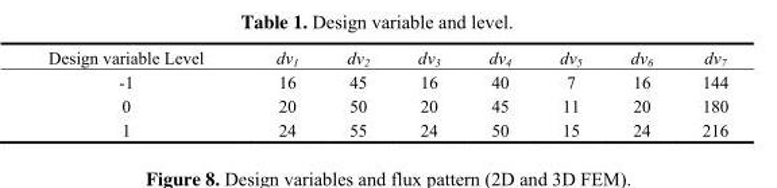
<table><thead><tr><td>Design variable Level</td><td>dv<sub>1</sub></td><td>dv<sub>2</sub></td><td>dv<sub>3</sub></td><td>dv<sub>4</sub></td><td>dv<sub>5</sub></td><td>dv<sub>6</sub></td><td>dv<sub>7</sub></td></tr></thead><tbody><tr><td>-1</td><td>16</td><td>45</td><td>16</td><td>40</td><td>7</td><td>16</td><td>144</td></tr><tr><td>0</td><td>20</td><td>50</td><td>20</td><td>45</td><td>11</td><td>20</td><td>180</td></tr><tr><td>1</td><td>24</td><td>55</td><td>24</td><td>50</td><td>15</td><td>24</td><td>216</td></tr></tbody></table>